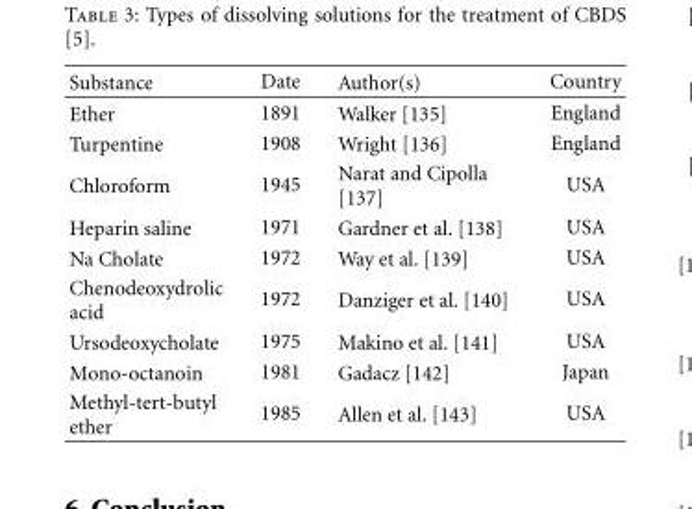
<table><thead><tr><td>Substance</td><td>Date</td><td>Author(s)</td><td>Country</td></tr></thead><tbody><tr><td>Ether</td><td>1891</td><td>Walker [135]</td><td>England</td></tr><tr><td>Turpentine</td><td>1908</td><td>Wright [136]</td><td>England</td></tr><tr><td>Chloroform</td><td>1945</td><td>Narat and Cipolla [137]</td><td>USA</td></tr><tr><td>Heparin saline</td><td>1971</td><td>Gardner et al. [138]</td><td>USA</td></tr><tr><td>Na Cholate</td><td>1972</td><td>Way et al. [139]</td><td>USA</td></tr><tr><td>Chenodeoxydrolic acid</td><td>1972</td><td>Danziger et al. [140]</td><td>USA</td></tr><tr><td>Ursodeoxycholate</td><td>1975</td><td>Makino et al. [141]</td><td>USA</td></tr><tr><td>Mono-octanoin</td><td>1981</td><td>Gadacz [142]</td><td>Japan</td></tr><tr><td>Methyl-tert-butyl ether</td><td>1985</td><td>Allen et al. [143]</td><td>USA</td></tr></tbody></table>